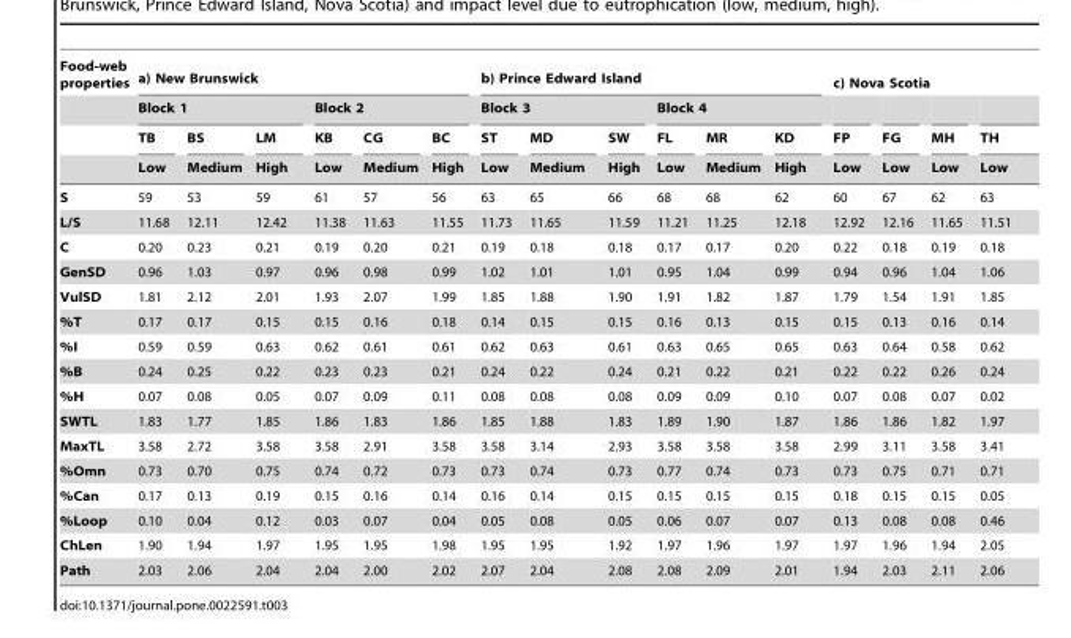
<table><thead><tr><td rowspan="4">Food-web properties</td><td colspan="6">a) New Brunswick</td><td colspan="6">b) Prince Edward Island</td><td colspan="4">c) Nova Scotia</td></tr><tr><td colspan="3">Block 1</td><td colspan="3">Block 2</td><td colspan="3">Block 3</td><td colspan="3">Block 4</td><td rowspan="3">FP Low</td><td rowspan="3">FG Low</td><td rowspan="3">MH Low</td><td rowspan="3">TH Low</td></tr><tr><td rowspan="2">TB Low</td><td rowspan="2">BS Medium</td><td rowspan="2">LM High</td><td rowspan="2">KB Low</td><td rowspan="2">CG Medium</td><td rowspan="2">BC High</td><td rowspan="2">ST Low</td><td rowspan="2">MD Medium</td><td rowspan="2">SW High</td><td rowspan="2">FL Low</td><td rowspan="2">MR Medium</td><td rowspan="2">KD High</td></tr><tr></tr></thead><tbody><tr><td>S</td><td>59</td><td>53</td><td>59</td><td>61</td><td>57</td><td>56</td><td>63</td><td>65</td><td>66</td><td>68</td><td>68</td><td>62</td><td>60</td><td>67</td><td>62</td><td>63</td></tr><tr><td>L/S</td><td>11.68</td><td>12.11</td><td>12.42</td><td>11.38</td><td>11.63</td><td>11.55</td><td>11.73</td><td>11.65</td><td>11.59</td><td>11.21</td><td>11.25</td><td>12.18</td><td>12.92</td><td>12.16</td><td>11.65</td><td>11.51</td></tr><tr><td>C</td><td>0.20</td><td>0.23</td><td>0.21</td><td>0.19</td><td>0.20</td><td>0.21</td><td>0.19</td><td>0.18</td><td>0.18</td><td>0.17</td><td>0.17</td><td>0.20</td><td>0.22</td><td>0.18</td><td>0.19</td><td>0.18</td></tr><tr><td>GenSD</td><td>0.96</td><td>1.03</td><td>0.97</td><td>0.96</td><td>0.98</td><td>0.99</td><td>1.02</td><td>1.01</td><td>1.01</td><td>0.95</td><td>1.04</td><td>0.99</td><td>0.94</td><td>0.96</td><td>1.04</td><td>1.06</td></tr><tr><td>VulSD</td><td>1.81</td><td>2.12</td><td>2.01</td><td>1.93</td><td>2.07</td><td>1.99</td><td>1.85</td><td>1.88</td><td>1.90</td><td>1.91</td><td>1.82</td><td>1.87</td><td>1.79</td><td>1.54</td><td>1.91</td><td>1.85</td></tr><tr><td>%T</td><td>0.17</td><td>0.17</td><td>0.15</td><td>0.15</td><td>0.16</td><td>0.18</td><td>0.14</td><td>0.15</td><td>0.15</td><td>0.16</td><td>0.13</td><td>0.15</td><td>0.15</td><td>0.13</td><td>0.16</td><td>0.14</td></tr><tr><td>%I</td><td>0.59</td><td>0.59</td><td>0.63</td><td>0.62</td><td>0.61</td><td>0.61</td><td>0.62</td><td>0.63</td><td>0.61</td><td>0.63</td><td>0.65</td><td>0.65</td><td>0.63</td><td>0.64</td><td>0.58</td><td>0.62</td></tr><tr><td>%B</td><td>0.24</td><td>0.25</td><td>0.22</td><td>0.23</td><td>0.23</td><td>0.21</td><td>0.24</td><td>0.22</td><td>0.24</td><td>0.21</td><td>0.22</td><td>0.21</td><td>0.22</td><td>0.22</td><td>0.26</td><td>0.24</td></tr><tr><td>%H</td><td>0.07</td><td>0.08</td><td>0.05</td><td>0.07</td><td>0.09</td><td>0.11</td><td>0.08</td><td>0.08</td><td>0.08</td><td>0.09</td><td>0.09</td><td>0.10</td><td>0.07</td><td>0.08</td><td>0.07</td><td>0.02</td></tr><tr><td>SWTL</td><td>1.83</td><td>1.77</td><td>1.85</td><td>1.86</td><td>1.83</td><td>1.86</td><td>1.85</td><td>1.88</td><td>1.83</td><td>1.89</td><td>1.90</td><td>1.87</td><td>1.86</td><td>1.86</td><td>1.82</td><td>1.97</td></tr><tr><td>MaxTL</td><td>3.58</td><td>2.72</td><td>3.58</td><td>3.58</td><td>2.91</td><td>3.58</td><td>3.58</td><td>3.14</td><td>2.93</td><td>3.58</td><td>3.58</td><td>3.58</td><td>2.99</td><td>3.11</td><td>3.58</td><td>3.41</td></tr><tr><td>%Omn</td><td>0.73</td><td>0.70</td><td>0.75</td><td>0.74</td><td>0.72</td><td>0.73</td><td>0.73</td><td>0.74</td><td>0.73</td><td>0.77</td><td>0.74</td><td>0.73</td><td>0.73</td><td>0.75</td><td>0.71</td><td>0.71</td></tr><tr><td>%Can</td><td>0.17</td><td>0.13</td><td>0.19</td><td>0.15</td><td>0.16</td><td>0.14</td><td>0.16</td><td>0.14</td><td>0.15</td><td>0.15</td><td>0.15</td><td>0.15</td><td>0.18</td><td>0.15</td><td>0.15</td><td>0.05</td></tr><tr><td>%Loop</td><td>0.10</td><td>0.04</td><td>0.12</td><td>0.03</td><td>0.07</td><td>0.04</td><td>0.05</td><td>0.08</td><td>0.05</td><td>0.06</td><td>0.07</td><td>0.07</td><td>0.13</td><td>0.08</td><td>0.08</td><td>0.46</td></tr><tr><td>ChLen</td><td>1.90</td><td>1.94</td><td>1.97</td><td>1.95</td><td>1.95</td><td>1.98</td><td>1.95</td><td>1.95</td><td>1.92</td><td>1.97</td><td>1.96</td><td>1.97</td><td>1.97</td><td>1.96</td><td>1.94</td><td>2.05</td></tr><tr><td>Path</td><td>2.03</td><td>2.06</td><td>2.04</td><td>2.04</td><td>2.00</td><td>2.02</td><td>2.07</td><td>2.04</td><td>2.08</td><td>2.08</td><td>2.09</td><td>2.01</td><td>1.94</td><td>2.03</td><td>2.11</td><td>2.06</td></tr></tbody></table>